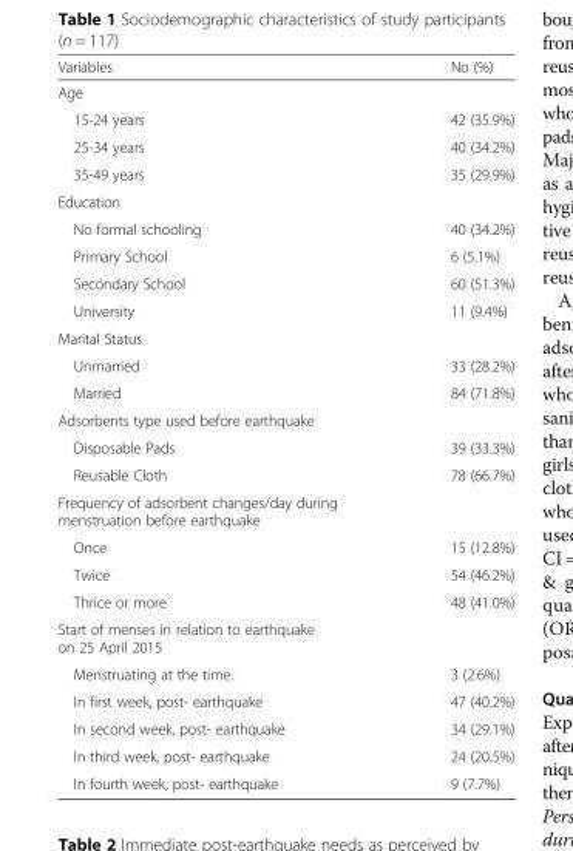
<table><thead><tr><td>Variables</td><td>No (%)</td></tr></thead><tbody><tr><td colspan="2">Age</td></tr><tr><td>15-24 years</td><td>42 (35.9%)</td></tr><tr><td>25-34 years</td><td>40 (34.2%)</td></tr><tr><td>35-49 years</td><td>35 (29.9%)</td></tr><tr><td colspan="2">Education</td></tr><tr><td>No formal schooling</td><td>40 (34.2%)</td></tr><tr><td>Primary School</td><td>6 (5.1%)</td></tr><tr><td>Secondary School</td><td>60 (51.3%)</td></tr><tr><td>University</td><td>11 (9.4%)</td></tr><tr><td colspan="2">Marital Status</td></tr><tr><td>Unmarried</td><td>33 (28.2%)</td></tr><tr><td>Married</td><td>84 (71.8%)</td></tr><tr><td colspan="2">Adsorbents type used before earthquake</td></tr><tr><td>Disposable Pads</td><td>39 (33.3%)</td></tr><tr><td>Reusable Cloth</td><td>78 (66.7%)</td></tr><tr><td colspan="2">Frequency of adsorbent changes/day during menstruation before earthquake</td></tr><tr><td>Once</td><td>15 (12.8%)</td></tr><tr><td>Twice</td><td>54 (46.2%)</td></tr><tr><td>Thrice or more</td><td>48 (41.0%)</td></tr><tr><td colspan="2">Start of menses in relation to earthquake on 25 April 2015</td></tr><tr><td>Menstruating at the time.</td><td>3 (2.6%)</td></tr><tr><td>In first week, post- earthquake</td><td>47 (40.2%)</td></tr><tr><td>In second week, post- earthquake</td><td>34 (29.1%)</td></tr><tr><td>In third week, post- earthquake</td><td>24 (20.5%)</td></tr><tr><td>In fourth week, post- earthquake</td><td>9 (7.7%)</td></tr></tbody></table>